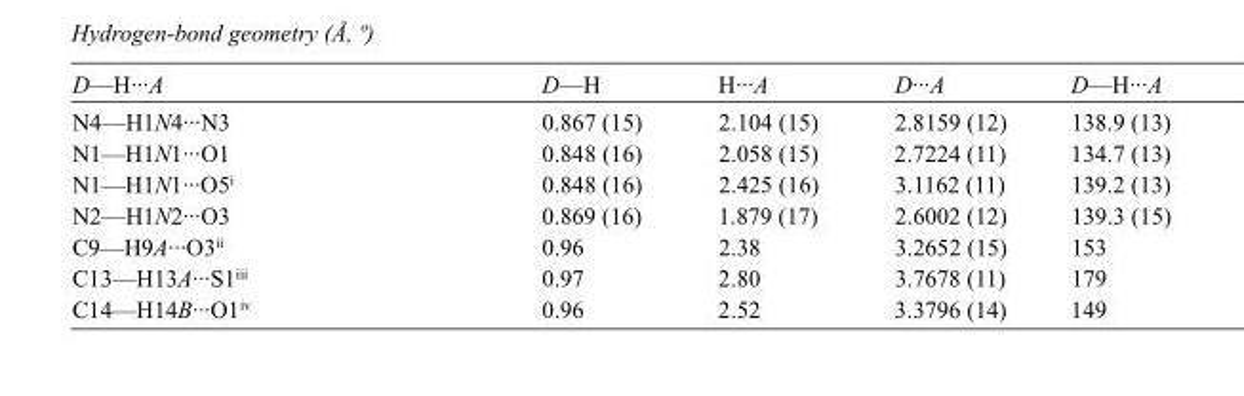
<table><tbody><tr><td>D—H···A</td><td>D—H</td><td>H···A</td><td>D···A</td><td>D—H···A</td></tr><tr><td>N4—H1N4···N3</td><td>0.867 (15)</td><td>2.104 (15)</td><td>2.8159 (12)</td><td>138.9 (13)</td></tr><tr><td>N1—H1N1···O1</td><td>0.848 (16)</td><td>2.058 (15)</td><td>2.7224 (11)</td><td>134.7 (13)</td></tr><tr><td>N1—H1N1···O5<sup>i</sup></td><td>0.848 (16)</td><td>2.425 (16)</td><td>3.1162 (11)</td><td>139.2 (13)</td></tr><tr><td>N2—H1N2···O3</td><td>0.869 (16)</td><td>1.879 (17)</td><td>2.6002 (12)</td><td>139.3 (15)</td></tr><tr><td>C9—H9A···O3<sup>ii</sup></td><td>0.96</td><td>2.38</td><td>3.2652 (15)</td><td>153</td></tr><tr><td>C13—H13A···S1<sup>iii</sup></td><td>0.97</td><td>2.80</td><td>3.7678 (11)</td><td>179</td></tr><tr><td>C14—H14B···O1<sup>iv</sup></td><td>0.96</td><td>2.52</td><td>3.3796 (14)</td><td>149</td></tr></tbody></table>